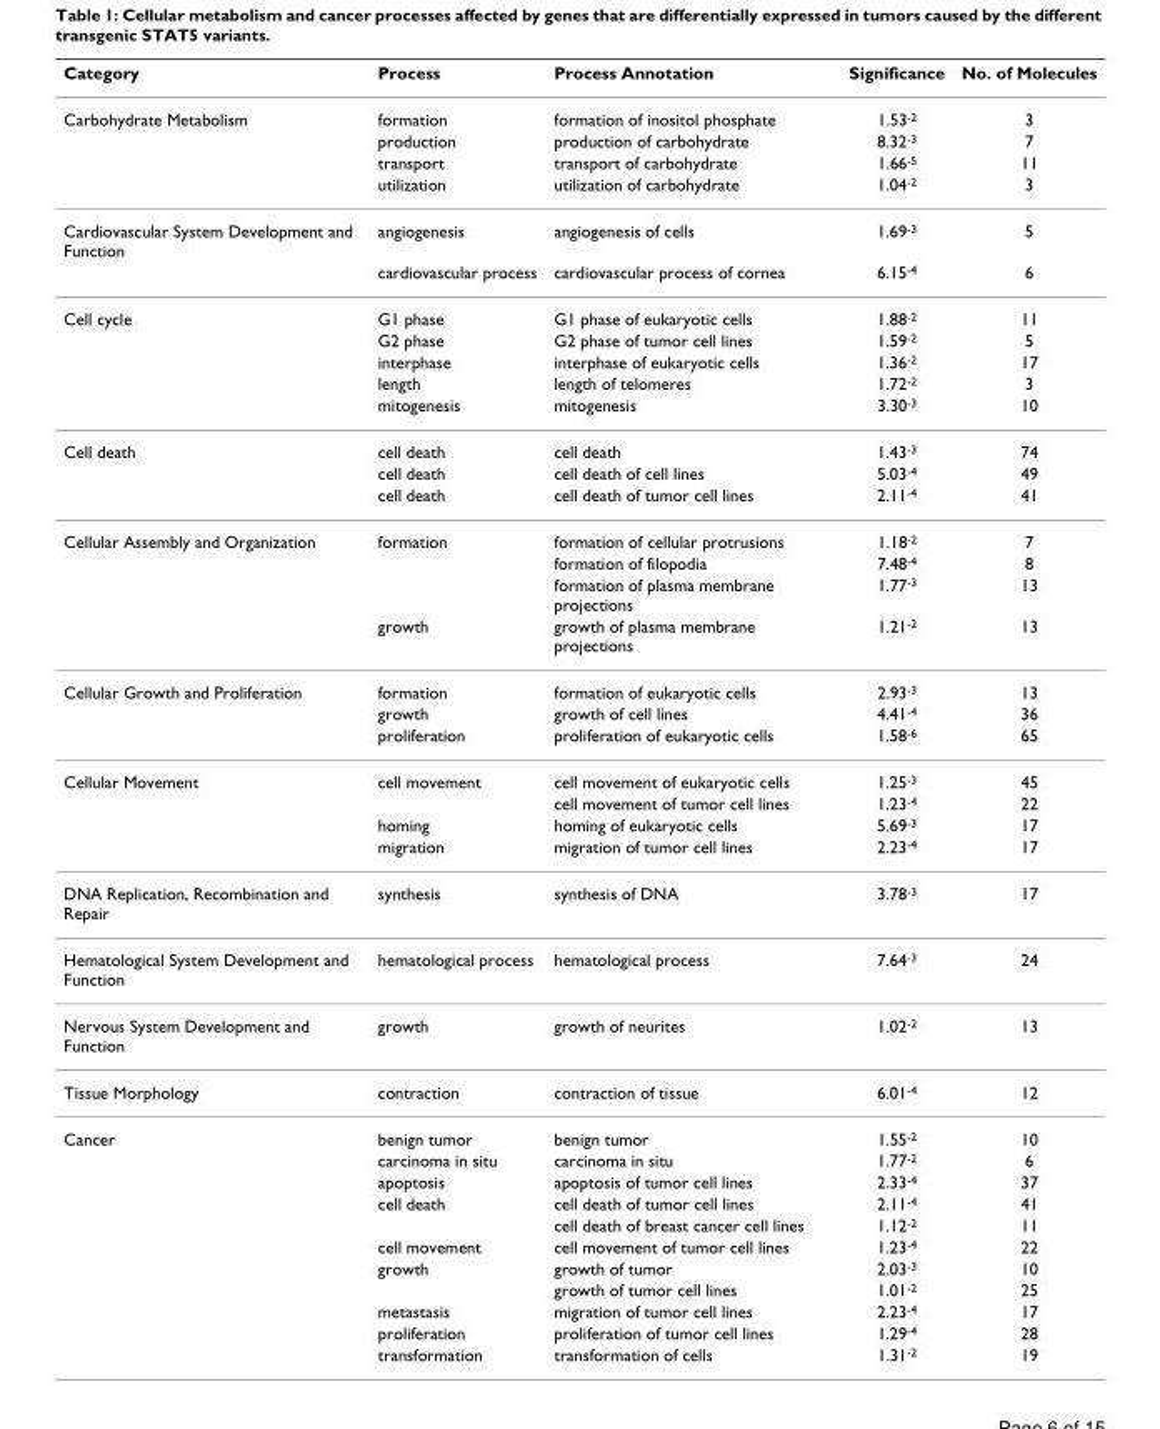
<table><thead><tr><td>Category</td><td>Process</td><td>Process Annotation</td><td>Significance</td><td>No. of Molecules</td></tr></thead><tbody><tr><td rowspan="4">Carbohydrate Metabolism</td><td>formation</td><td>formation of inositol phosphate</td><td>1.53<sup>-2</sup></td><td>3</td></tr><tr><td>production</td><td>production of carbohydrate</td><td>8.32<sup>-3</sup></td><td>7</td></tr><tr><td>transport</td><td>transport of carbohydrate</td><td>1.66<sup>-5</sup></td><td>11</td></tr><tr><td>utilization</td><td>utilization of carbohydrate</td><td>1.04<sup>-2</sup></td><td>3</td></tr><tr><td rowspan="2">Cardiovascular System Development and Function</td><td>angiogenesis</td><td>angiogenesis of cells</td><td>1.69<sup>-3</sup></td><td>5</td></tr><tr><td>cardiovascular process</td><td>cardiovascular process of cornea</td><td>6.15<sup>-4</sup></td><td>6</td></tr><tr><td rowspan="5">Cell cycle</td><td>G1 phase</td><td>G1 phase of eukaryotic cells</td><td>1.88<sup>-2</sup></td><td>11</td></tr><tr><td>G2 phase</td><td>G2 phase of tumor cell lines</td><td>1.59<sup>-2</sup></td><td>5</td></tr><tr><td>interphase</td><td>interphase of eukaryotic cells</td><td>1.36<sup>-2</sup></td><td>17</td></tr><tr><td>length</td><td>length of telomeres</td><td>1.72<sup>-2</sup></td><td>3</td></tr><tr><td>mitogenesis</td><td>mitogenesis</td><td>3.30<sup>-3</sup></td><td>10</td></tr><tr><td rowspan="3">Cell death</td><td>cell death</td><td>cell death</td><td>1.43<sup>-3</sup></td><td>74</td></tr><tr><td>cell death</td><td>cell death of cell lines</td><td>5.03<sup>-4</sup></td><td>49</td></tr><tr><td>cell death</td><td>cell death of tumor cell lines</td><td>2.11<sup>-4</sup></td><td>41</td></tr><tr><td rowspan="4">Cellular Assembly and Organization</td><td>formation</td><td>formation of cellular protrusions</td><td>1.18<sup>-2</sup></td><td>7</td></tr><tr><td></td><td>formation of filopodia</td><td>7.48<sup>-4</sup></td><td>8</td></tr><tr><td></td><td>formation of plasma membrane projections</td><td>1.77<sup>-3</sup></td><td>13</td></tr><tr><td>growth</td><td>growth of plasma membrane projections</td><td>1.21<sup>-2</sup></td><td>13</td></tr><tr><td rowspan="3">Cellular Growth and Proliferation</td><td>formation</td><td>formation of eukaryotic cells</td><td>2.93<sup>-3</sup></td><td>13</td></tr><tr><td>growth</td><td>growth of cell lines</td><td>4.41<sup>-4</sup></td><td>36</td></tr><tr><td>proliferation</td><td>proliferation of eukaryotic cells</td><td>1.58<sup>-6</sup></td><td>65</td></tr><tr><td rowspan="4">Cellular Movement</td><td>cell movement</td><td>cell movement of eukaryotic cells</td><td>1.25<sup>-3</sup></td><td>45</td></tr><tr><td></td><td>cell movement of tumor cell lines</td><td>1.23<sup>-4</sup></td><td>22</td></tr><tr><td>homing</td><td>homing of eukaryotic cells</td><td>5.69<sup>-3</sup></td><td>17</td></tr><tr><td>migration</td><td>migration of tumor cell lines</td><td>2.23<sup>-4</sup></td><td>17</td></tr><tr><td>DNA Replication, Recombination and Repair</td><td>synthesis</td><td>synthesis of DNA</td><td>3.78<sup>-3</sup></td><td>17</td></tr><tr><td>Hematological System Development and Function</td><td>hematological process</td><td>hematological process</td><td>7.64<sup>-3</sup></td><td>24</td></tr><tr><td>Nervous System Development and Function</td><td>growth</td><td>growth of neurites</td><td>1.02<sup>-2</sup></td><td>13</td></tr><tr><td>Tissue Morphology</td><td>contraction</td><td>contraction of tissue</td><td>6.01<sup>-4</sup></td><td>12</td></tr><tr><td rowspan="11">Cancer</td><td>benign tumor</td><td>benign tumor</td><td>1.55<sup>-2</sup></td><td>10</td></tr><tr><td>carcinoma in situ</td><td>carcinoma in situ</td><td>1.77<sup>-2</sup></td><td>6</td></tr><tr><td>apoptosis</td><td>apoptosis of tumor cell lines</td><td>2.33<sup>-4</sup></td><td>37</td></tr><tr><td>cell death</td><td>cell death of tumor cell lines</td><td>2.11<sup>-4</sup></td><td>41</td></tr><tr><td></td><td>cell death of breast cancer cell lines</td><td>1.12<sup>-2</sup></td><td>11</td></tr><tr><td>cell movement</td><td>cell movement of tumor cell lines</td><td>1.23<sup>-4</sup></td><td>22</td></tr><tr><td>growth</td><td>growth of tumor</td><td>2.03<sup>-3</sup></td><td>10</td></tr><tr><td></td><td>growth of tumor cell lines</td><td>1.01<sup>-2</sup></td><td>25</td></tr><tr><td>metastasis</td><td>migration of tumor cell lines</td><td>2.23<sup>-4</sup></td><td>17</td></tr><tr><td>proliferation</td><td>proliferation of tumor cell lines</td><td>1.29<sup>-4</sup></td><td>28</td></tr><tr><td>transformation</td><td>transformation of cells</td><td>1.31<sup>-2</sup></td><td>19</td></tr></tbody></table>